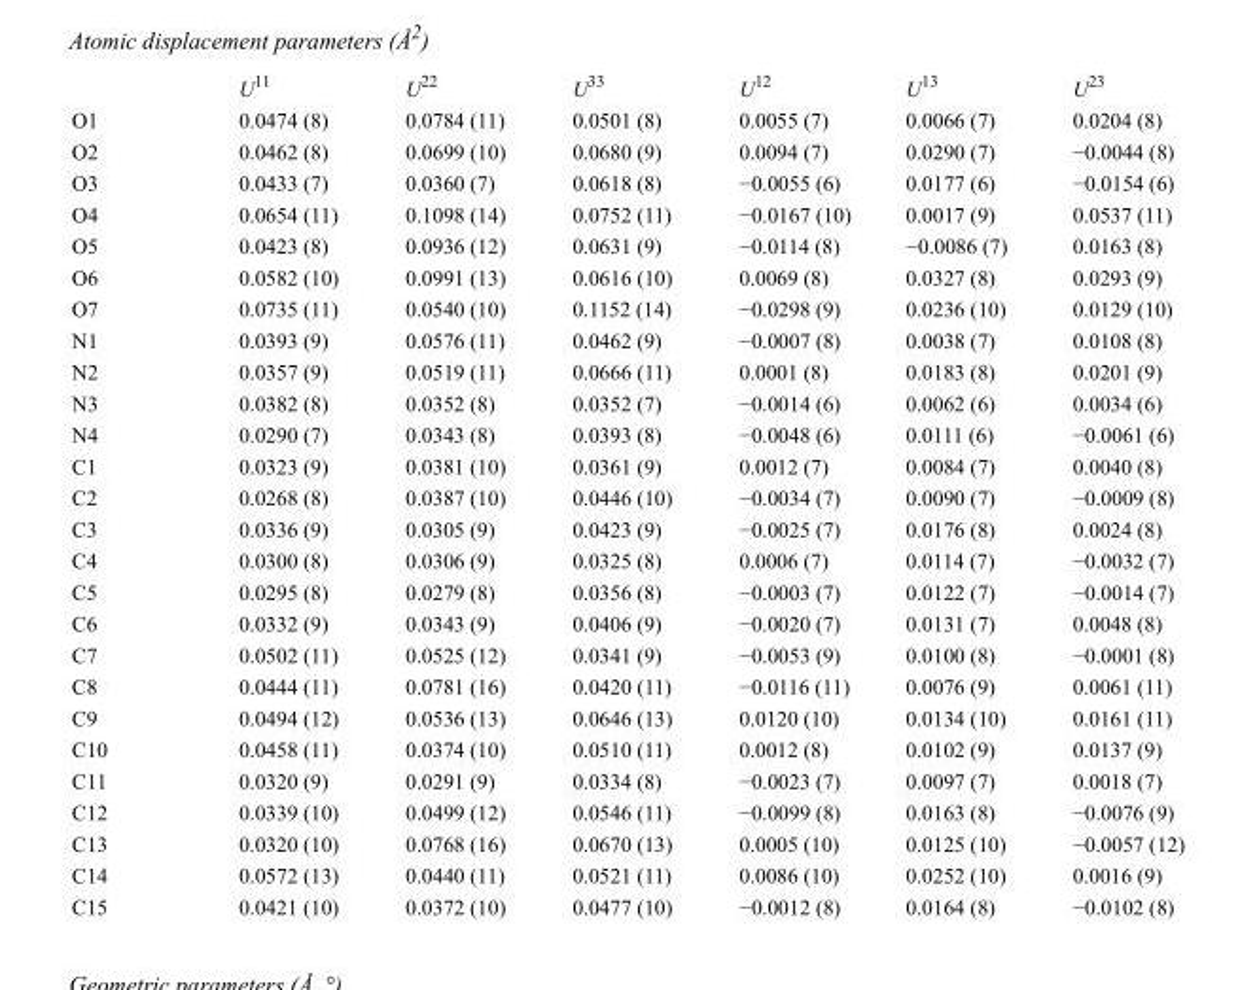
<table><thead><tr><td></td><td>U<sup>11</sup></td><td>U<sup>22</sup></td><td>U<sup>33</sup></td><td>U<sup>12</sup></td><td>U<sup>13</sup></td><td>U<sup>23</sup></td></tr></thead><tbody><tr><td>O1</td><td>0.0474 (8)</td><td>0.0784 (11)</td><td>0.0501 (8)</td><td>0.0055 (7)</td><td>0.0066 (7)</td><td>0.0204 (8)</td></tr><tr><td>O2</td><td>0.0462 (8)</td><td>0.0699 (10)</td><td>0.0680 (9)</td><td>0.0094 (7)</td><td>0.0290 (7)</td><td>−0.0044 (8)</td></tr><tr><td>O3</td><td>0.0433 (7)</td><td>0.0360 (7)</td><td>0.0618 (8)</td><td>−0.0055 (6)</td><td>0.0177 (6)</td><td>−0.0154 (6)</td></tr><tr><td>O4</td><td>0.0654 (11)</td><td>0.1098 (14)</td><td>0.0752 (11)</td><td>−0.0167 (10)</td><td>0.0017 (9)</td><td>0.0537 (11)</td></tr><tr><td>O5</td><td>0.0423 (8)</td><td>0.0936 (12)</td><td>0.0631 (9)</td><td>−0.0114 (8)</td><td>−0.0086 (7)</td><td>0.0163 (8)</td></tr><tr><td>O6</td><td>0.0582 (10)</td><td>0.0991 (13)</td><td>0.0616 (10)</td><td>0.0069 (8)</td><td>0.0327 (8)</td><td>0.0293 (9)</td></tr><tr><td>O7</td><td>0.0735 (11)</td><td>0.0540 (10)</td><td>0.1152 (14)</td><td>−0.0298 (9)</td><td>0.0236 (10)</td><td>0.0129 (10)</td></tr><tr><td>N1</td><td>0.0393 (9)</td><td>0.0576 (11)</td><td>0.0462 (9)</td><td>−0.0007 (8)</td><td>0.0038 (7)</td><td>0.0108 (8)</td></tr><tr><td>N2</td><td>0.0357 (9)</td><td>0.0519 (11)</td><td>0.0666 (11)</td><td>0.0001 (8)</td><td>0.0183 (8)</td><td>0.0201 (9)</td></tr><tr><td>N3</td><td>0.0382 (8)</td><td>0.0352 (8)</td><td>0.0352 (7)</td><td>−0.0014 (6)</td><td>0.0062 (6)</td><td>0.0034 (6)</td></tr><tr><td>N4</td><td>0.0290 (7)</td><td>0.0343 (8)</td><td>0.0393 (8)</td><td>−0.0048 (6)</td><td>0.0111 (6)</td><td>−0.0061 (6)</td></tr><tr><td>C1</td><td>0.0323 (9)</td><td>0.0381 (10)</td><td>0.0361 (9)</td><td>0.0012 (7)</td><td>0.0084 (7)</td><td>0.0040 (8)</td></tr><tr><td>C2</td><td>0.0268 (8)</td><td>0.0387 (10)</td><td>0.0446 (10)</td><td>−0.0034 (7)</td><td>0.0090 (7)</td><td>−0.0009 (8)</td></tr><tr><td>C3</td><td>0.0336 (9)</td><td>0.0305 (9)</td><td>0.0423 (9)</td><td>−0.0025 (7)</td><td>0.0176 (8)</td><td>0.0024 (8)</td></tr><tr><td>C4</td><td>0.0300 (8)</td><td>0.0306 (9)</td><td>0.0325 (8)</td><td>0.0006 (7)</td><td>0.0114 (7)</td><td>−0.0032 (7)</td></tr><tr><td>C5</td><td>0.0295 (8)</td><td>0.0279 (8)</td><td>0.0356 (8)</td><td>−0.0003 (7)</td><td>0.0122 (7)</td><td>−0.0014 (7)</td></tr><tr><td>C6</td><td>0.0332 (9)</td><td>0.0343 (9)</td><td>0.0406 (9)</td><td>−0.0020 (7)</td><td>0.0131 (7)</td><td>0.0048 (8)</td></tr><tr><td>C7</td><td>0.0502 (11)</td><td>0.0525 (12)</td><td>0.0341 (9)</td><td>−0.0053 (9)</td><td>0.0100 (8)</td><td>−0.0001 (8)</td></tr><tr><td>C8</td><td>0.0444 (11)</td><td>0.0781 (16)</td><td>0.0420 (11)</td><td>−0.0116 (11)</td><td>0.0076 (9)</td><td>0.0061 (11)</td></tr><tr><td>C9</td><td>0.0494 (12)</td><td>0.0536 (13)</td><td>0.0646 (13)</td><td>0.0120 (10)</td><td>0.0134 (10)</td><td>0.0161 (11)</td></tr><tr><td>C10</td><td>0.0458 (11)</td><td>0.0374 (10)</td><td>0.0510 (11)</td><td>0.0012 (8)</td><td>0.0102 (9)</td><td>0.0137 (9)</td></tr><tr><td>C11</td><td>0.0320 (9)</td><td>0.0291 (9)</td><td>0.0334 (8)</td><td>−0.0023 (7)</td><td>0.0097 (7)</td><td>0.0018 (7)</td></tr><tr><td>C12</td><td>0.0339 (10)</td><td>0.0499 (12)</td><td>0.0546 (11)</td><td>−0.0099 (8)</td><td>0.0163 (8)</td><td>−0.0076 (9)</td></tr><tr><td>C13</td><td>0.0320 (10)</td><td>0.0768 (16)</td><td>0.0670 (13)</td><td>0.0005 (10)</td><td>0.0125 (10)</td><td>−0.0057 (12)</td></tr><tr><td>C14</td><td>0.0572 (13)</td><td>0.0440 (11)</td><td>0.0521 (11)</td><td>0.0086 (10)</td><td>0.0252 (10)</td><td>0.0016 (9)</td></tr><tr><td>C15</td><td>0.0421 (10)</td><td>0.0372 (10)</td><td>0.0477 (10)</td><td>−0.0012 (8)</td><td>0.0164 (8)</td><td>−0.0102 (8)</td></tr></tbody></table>